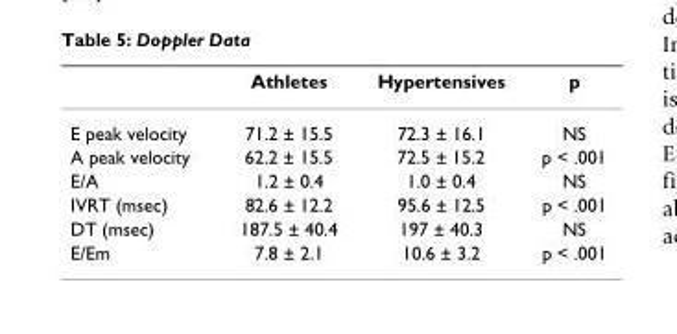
<table><thead><tr><td></td><td>Athletes</td><td>Hypertensives</td><td>p</td></tr></thead><tbody><tr><td>E peak velocity</td><td>71.2 ± 15.5</td><td>72.3 ± 16.1</td><td>NS</td></tr><tr><td>A peak velocity</td><td>62.2 ± 15.5</td><td>72.5 ± 15.2</td><td>p &lt; .001</td></tr><tr><td>E/A</td><td>1.2 ± 0.4</td><td>1.0 ± 0.4</td><td>NS</td></tr><tr><td>IVRT (msec)</td><td>82.6 ± 12.2</td><td>95.6 ± 12.5</td><td>p &lt; .001</td></tr><tr><td>DT (msec)</td><td>187.5 ± 40.4</td><td>197 ± 40.3</td><td>NS</td></tr><tr><td>E/Em</td><td>7.8 ± 2.1</td><td>10.6 ± 3.2</td><td>p &lt; .001</td></tr></tbody></table>